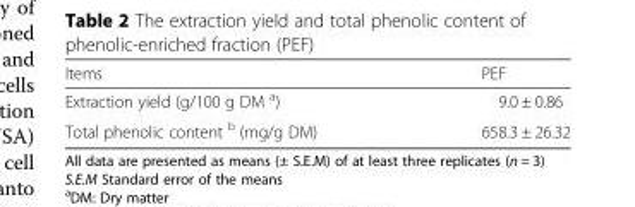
<table><thead><tr><td>Items</td><td>PEF</td></tr></thead><tbody><tr><td>Extraction yield (g/100 g DM <sup>a</sup>)</td><td>9.0 ± 0.86</td></tr><tr><td>Total phenolic content <sup>b</sup> (mg/g DM)</td><td>658.3 ± 26.32</td></tr></tbody></table>